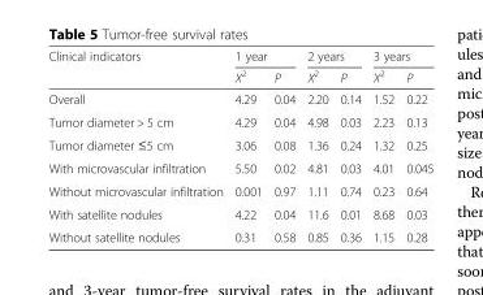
<table><thead><tr><td rowspan="2">Clinical indicators</td><td colspan="2">1 year</td><td colspan="2">2 years</td><td colspan="2">3 years</td></tr><tr><td>X<sup>2</sup></td><td>P</td><td>X<sup>2</sup></td><td>P</td><td>X<sup>2</sup></td><td>P</td></tr></thead><tbody><tr><td>Overall</td><td>4.29</td><td>0.04</td><td>2.20</td><td>0.14</td><td>1.52</td><td>0.22</td></tr><tr><td>Tumor diameter &gt; 5 cm</td><td>4.29</td><td>0.04</td><td>4.98</td><td>0.03</td><td>2.23</td><td>0.13</td></tr><tr><td>Tumor diameter ≤5 cm</td><td>3.06</td><td>0.08</td><td>1.36</td><td>0.24</td><td>1.32</td><td>0.25</td></tr><tr><td>With microvascular infiltration</td><td>5.50</td><td>0.02</td><td>4.81</td><td>0.03</td><td>4.01</td><td>0.045</td></tr><tr><td>Without microvascular infiltration</td><td>0.001</td><td>0.97</td><td>1.11</td><td>0.74</td><td>0.23</td><td>0.64</td></tr><tr><td>With satellite nodules</td><td>4.22</td><td>0.04</td><td>11.6</td><td>0.01</td><td>8.68</td><td>0.03</td></tr><tr><td>Without satellite nodules</td><td>0.31</td><td>0.58</td><td>0.85</td><td>0.36</td><td>1.15</td><td>0.28</td></tr></tbody></table>